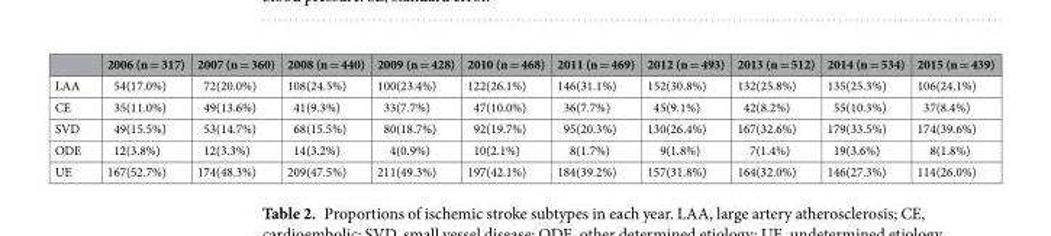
<table><thead><tr><td></td><td>2006 (n = 317)</td><td>2007 (n = 360)</td><td>2008 (n = 440)</td><td>2009 (n = 428)</td><td>2010 (n = 468)</td><td>2011 (n = 469)</td><td>2012 (n = 493)</td><td>2013 (n = 512)</td><td>2014 (n = 534)</td><td>2015 (n = 439)</td></tr></thead><tbody><tr><td>LAA</td><td>54(17.0%)</td><td>72(20.0%)</td><td>108(24.5%)</td><td>100(23.4%)</td><td>122(26.1%)</td><td>146(31.1%)</td><td>152(30.8%)</td><td>132(25.8%)</td><td>135(25.3%)</td><td>106(24.1%)</td></tr><tr><td>CE</td><td>35(11.0%)</td><td>49(13.6%)</td><td>41(9.3%)</td><td>33(7.7%)</td><td>47(10.0%)</td><td>36(7.7%)</td><td>45(9.1%)</td><td>42(8.2%)</td><td>55(10.3%)</td><td>37(8.4%)</td></tr><tr><td>SVD</td><td>49(15.5%)</td><td>53(14.7%)</td><td>68(15.5%)</td><td>80(18.7%)</td><td>92(19.7%)</td><td>95(20.3%)</td><td>130(26.4%)</td><td>167(32.6%)</td><td>179(33.5%)</td><td>174(39.6%)</td></tr><tr><td>ODE</td><td>12(3.8%)</td><td>12(3.3%)</td><td>14(3.2%)</td><td>4(0.9%)</td><td>10(2.1%)</td><td>8(1.7%)</td><td>9(1.8%)</td><td>7(1.4%)</td><td>19(3.6%)</td><td>8(1.8%)</td></tr><tr><td>UE</td><td>167(52.7%)</td><td>174(48.3%)</td><td>209(47.5%)</td><td>211(49.3%)</td><td>197(42.1%)</td><td>184(39.2%)</td><td>157(31.8%)</td><td>164(32.0%)</td><td>146(27.3%)</td><td>114(26.0%)</td></tr></tbody></table>